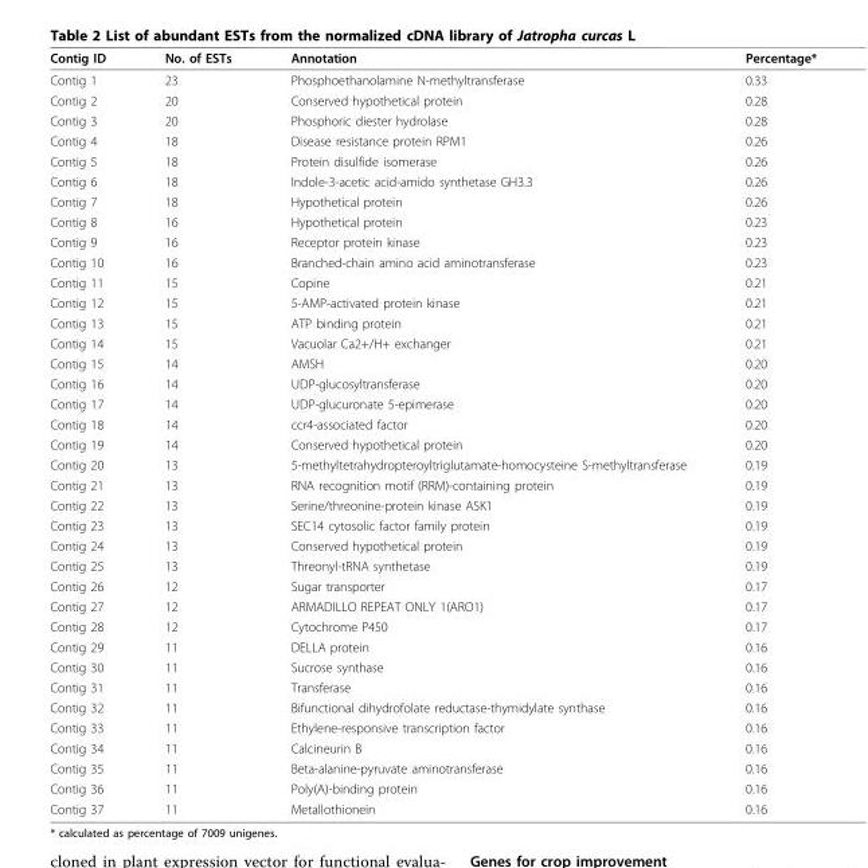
<table><thead><tr><td>Contig ID</td><td>No. of ESTs</td><td>Annotation</td><td>Percentage*</td></tr></thead><tbody><tr><td>Contig 1</td><td>23</td><td>Phosphoethanolamine N-methyltransferase</td><td>0.33</td></tr><tr><td>Contig 2</td><td>20</td><td>Conserved hypothetical protein</td><td>0.28</td></tr><tr><td>Contig 3</td><td>20</td><td>Phosphoric diester hydrolase</td><td>0.28</td></tr><tr><td>Contig 4</td><td>18</td><td>Disease resistance protein RPM1</td><td>0.26</td></tr><tr><td>Contig 5</td><td>18</td><td>Protein disulfide isomerase</td><td>0.26</td></tr><tr><td>Contig 6</td><td>18</td><td>Indole-3-acetic acid-amido synthetase GH3.3</td><td>0.26</td></tr><tr><td>Contig 7</td><td>18</td><td>Hypothetical protein</td><td>0.26</td></tr><tr><td>Contig 8</td><td>16</td><td>Hypothetical protein</td><td>0.23</td></tr><tr><td>Contig 9</td><td>16</td><td>Receptor protein kinase</td><td>0.23</td></tr><tr><td>Contig 10</td><td>16</td><td>Branched-chain amino acid aminotransferase</td><td>0.23</td></tr><tr><td>Contig 11</td><td>15</td><td>Copine</td><td>0.21</td></tr><tr><td>Contig 12</td><td>15</td><td>5-AMP-activated protein kinase</td><td>0.21</td></tr><tr><td>Contig 13</td><td>15</td><td>ATP binding protein</td><td>0.21</td></tr><tr><td>Contig 14</td><td>15</td><td>Vacuolar Ca2+/H+ exchanger</td><td>0.21</td></tr><tr><td>Contig 15</td><td>14</td><td>AMSH</td><td>0.20</td></tr><tr><td>Contig 16</td><td>14</td><td>UDP-glucosyltransferase</td><td>0.20</td></tr><tr><td>Contig 17</td><td>14</td><td>UDP-glucuronate 5-epimerase</td><td>0.20</td></tr><tr><td>Contig 18</td><td>14</td><td>ccr4-associated factor</td><td>0.20</td></tr><tr><td>Contig 19</td><td>14</td><td>Conserved hypothetical protein</td><td>0.20</td></tr><tr><td>Contig 20</td><td>13</td><td>5-methyltetrahydropteroyltriglutamate-homocysteine S-methyltransferase</td><td>0.19</td></tr><tr><td>Contig 21</td><td>13</td><td>RNA recognition motif (RRM)-containing protein</td><td>0.19</td></tr><tr><td>Contig 22</td><td>13</td><td>Serine/threonine-protein kinase ASK1</td><td>0.19</td></tr><tr><td>Contig 23</td><td>13</td><td>SEC14 cytosolic factor family protein</td><td>0.19</td></tr><tr><td>Contig 24</td><td>13</td><td>Conserved hypothetical protein</td><td>0.19</td></tr><tr><td>Contig 25</td><td>13</td><td>Threonyl-tRNA synthetase</td><td>0.19</td></tr><tr><td>Contig 26</td><td>12</td><td>Sugar transporter</td><td>0.17</td></tr><tr><td>Contig 27</td><td>12</td><td>ARMADILLO REPEAT ONLY 1(ARO1)</td><td>0.17</td></tr><tr><td>Contig 28</td><td>12</td><td>Cytochrome P450</td><td>0.17</td></tr><tr><td>Contig 29</td><td>11</td><td>DELLA protein</td><td>0.16</td></tr><tr><td>Contig 30</td><td>11</td><td>Sucrose synthase</td><td>0.16</td></tr><tr><td>Contig 31</td><td>11</td><td>Transferase</td><td>0.16</td></tr><tr><td>Contig 32</td><td>11</td><td>Bifunctional dihydrofolate reductase-thymidylate synthase</td><td>0.16</td></tr><tr><td>Contig 33</td><td>11</td><td>Ethylene-responsive transcription factor</td><td>0.16</td></tr><tr><td>Contig 34</td><td>11</td><td>Calcineurin B</td><td>0.16</td></tr><tr><td>Contig 35</td><td>11</td><td>Beta-alanine-pyruvate aminotransferase</td><td>0.16</td></tr><tr><td>Contig 36</td><td>11</td><td>Poly(A)-binding protein</td><td>0.16</td></tr><tr><td>Contig 37</td><td>11</td><td>Metallothionein</td><td>0.16</td></tr></tbody></table>